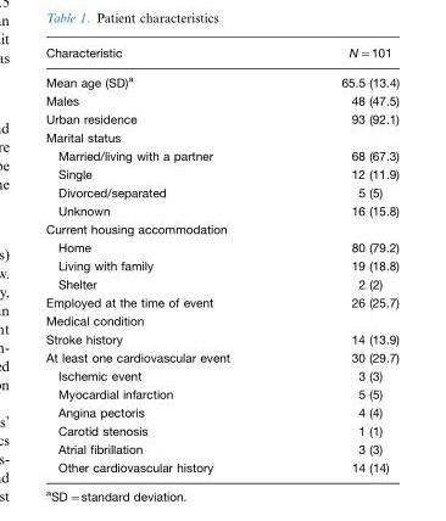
<table><thead><tr><td>Characteristic</td><td>N=101</td></tr></thead><tbody><tr><td>Mean age (SD)<sup>a</sup></td><td>65.5 (13.4)</td></tr><tr><td>Males</td><td>48 (47.5)</td></tr><tr><td>Urban residence</td><td>93 (92.1)</td></tr><tr><td colspan="2">Marital status</td></tr><tr><td>Married/living with a partner</td><td>68 (67.3)</td></tr><tr><td>Single</td><td>12 (11.9)</td></tr><tr><td>Divorced/separated</td><td>5 (5)</td></tr><tr><td>Unknown</td><td>16 (15.8)</td></tr><tr><td colspan="2">Current housing accommodation</td></tr><tr><td>Home</td><td>80 (79.2)</td></tr><tr><td>Living with family</td><td>19 (18.8)</td></tr><tr><td>Shelter</td><td>2 (2)</td></tr><tr><td>Employed at the time of event</td><td>26 (25.7)</td></tr><tr><td colspan="2">Medical condition</td></tr><tr><td>Stroke history</td><td>14 (13.9)</td></tr><tr><td>At least one cardiovascular event</td><td>30 (29.7)</td></tr><tr><td>Ischemic event</td><td>3 (3)</td></tr><tr><td>Myocardial infarction</td><td>5 (5)</td></tr><tr><td>Angina pectoris</td><td>4 (4)</td></tr><tr><td>Carotid stenosis</td><td>1 (1)</td></tr><tr><td>Atrial fibrillation</td><td>3 (3)</td></tr><tr><td>Other cardiovascular history</td><td>14 (14)</td></tr></tbody></table>